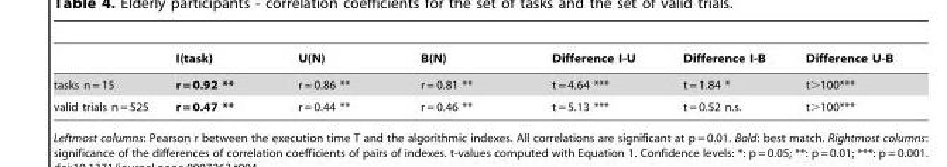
<table><thead><tr><td></td><td>I(task)</td><td>U(N)</td><td>B(N)</td><td>Difference I-U</td><td>Difference I-B</td><td>Difference U-B</td></tr></thead><tbody><tr><td>tasks n = 15</td><td>r = 0.92 **</td><td>r = 0.86 **</td><td>r = 0.81 **</td><td>t = 4.64 ***</td><td>t = 1.84 *</td><td>t&gt;100***</td></tr><tr><td>valid trials n = 525</td><td>r = 0.47 **</td><td>r = 0.44 **</td><td>r = 0.46 **</td><td>t = 5.13 ***</td><td>t = 0.52 n.s.</td><td>t&gt;100***</td></tr></tbody></table>